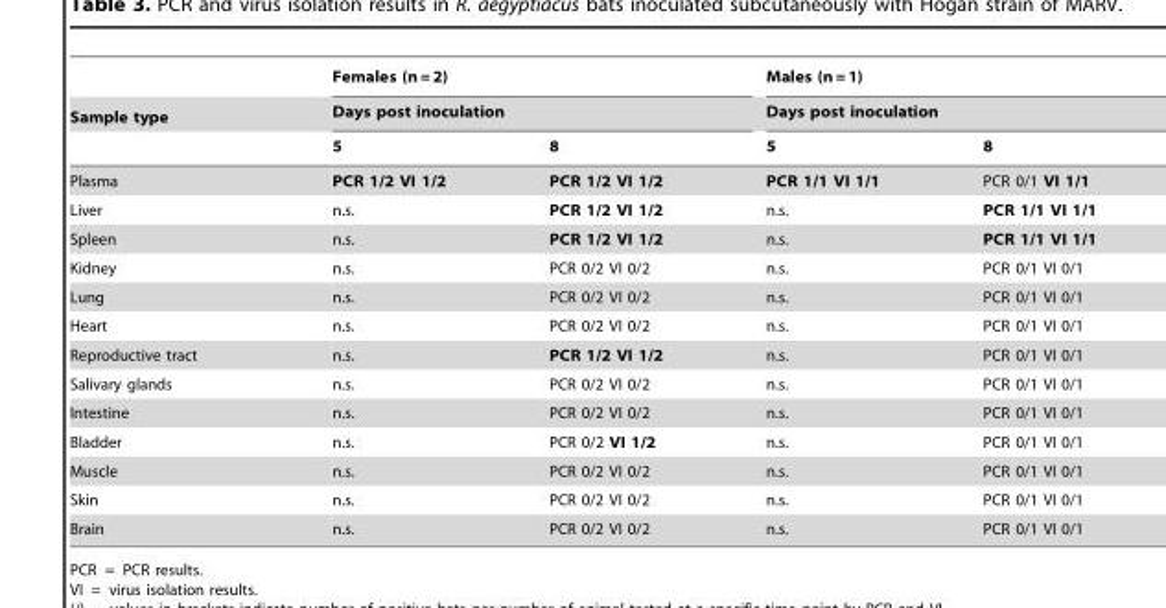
<table><thead><tr><td rowspan="3">Sample type</td><td rowspan="2" colspan="2">Females (n = 2) Days post inoculation</td><td rowspan="2" colspan="2">Males (n = 1) Days post inoculation</td></tr><tr></tr><tr><td>5</td><td>8</td><td>5</td><td>8</td></tr></thead><tbody><tr><td>Plasma</td><td>PCR 1/2 VI 1/2</td><td>PCR 1/2 VI 1/2</td><td>PCR 1/1 VI 1/1</td><td>PCR 0/1 VI 1/1</td></tr><tr><td>Liver</td><td>n.s.</td><td>PCR 1/2 VI 1/2</td><td>n.s.</td><td>PCR 1/1 VI 1/1</td></tr><tr><td>Spleen</td><td>n.s.</td><td>PCR 1/2 VI 1/2</td><td>n.s.</td><td>PCR 1/1 VI 1/1</td></tr><tr><td>Kidney</td><td>n.s.</td><td>PCR 0/2 VI 0/2</td><td>n.s.</td><td>PCR 0/1 VI 0/1</td></tr><tr><td>Lung</td><td>n.s.</td><td>PCR 0/2 VI 0/2</td><td>n.s.</td><td>PCR 0/1 VI 0/1</td></tr><tr><td>Heart</td><td>n.s.</td><td>PCR 0/2 VI 0/2</td><td>n.s.</td><td>PCR 0/1 VI 0/1</td></tr><tr><td>Reproductive tract</td><td>n.s.</td><td>PCR 1/2 VI 1/2</td><td>n.s.</td><td>PCR 0/1 VI 0/1</td></tr><tr><td>Salivary glands</td><td>n.s.</td><td>PCR 0/2 VI 0/2</td><td>n.s.</td><td>PCR 0/1 VI 0/1</td></tr><tr><td>Intestine</td><td>n.s.</td><td>PCR 0/2 VI 0/2</td><td>n.s.</td><td>PCR 0/1 VI 0/1</td></tr><tr><td>Bladder</td><td>n.s.</td><td>PCR 0/2 VI 1/2</td><td>n.s.</td><td>PCR 0/1 VI 0/1</td></tr><tr><td>Muscle</td><td>n.s.</td><td>PCR 0/2 VI 0/2</td><td>n.s.</td><td>PCR 0/1 VI 0/1</td></tr><tr><td>Skin</td><td>n.s.</td><td>PCR 0/2 VI 0/2</td><td>n.s.</td><td>PCR 0/1 VI 0/1</td></tr><tr><td>Brain</td><td>n.s.</td><td>PCR 0/2 VI 0/2</td><td>n.s.</td><td>PCR 0/1 VI 0/1</td></tr></tbody></table>